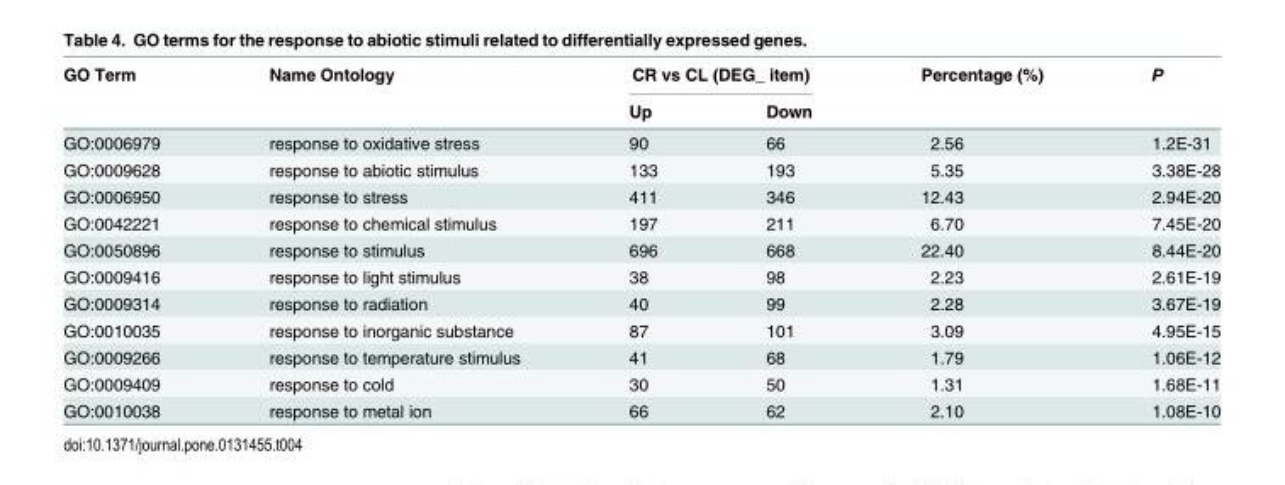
<table><thead><tr><td rowspan="2">GO Term</td><td rowspan="2">Name Ontology</td><td colspan="2">CR vs CL (DEG_ item)</td><td rowspan="2">Percentage (%)</td><td rowspan="2">P</td></tr><tr><td>Up</td><td>Down</td></tr></thead><tbody><tr><td>GO:0006979</td><td>response to oxidative stress</td><td>90</td><td>66</td><td>2.56</td><td>1.2E-31</td></tr><tr><td>GO:0009628</td><td>response to abiotic stimulus</td><td>133</td><td>193</td><td>5.35</td><td>3.38E-28</td></tr><tr><td>GO:0006950</td><td>response to stress</td><td>411</td><td>346</td><td>12.43</td><td>2.94E-20</td></tr><tr><td>GO:0042221</td><td>response to chemical stimulus</td><td>197</td><td>211</td><td>6.70</td><td>7.45E-20</td></tr><tr><td>GO:0050896</td><td>response to stimulus</td><td>696</td><td>668</td><td>22.40</td><td>8.44E-20</td></tr><tr><td>GO:0009416</td><td>response to light stimulus</td><td>38</td><td>98</td><td>2.23</td><td>2.61E-19</td></tr><tr><td>GO:0009314</td><td>response to radiation</td><td>40</td><td>99</td><td>2.28</td><td>3.67E-19</td></tr><tr><td>GO:0010035</td><td>response to inorganic substance</td><td>87</td><td>101</td><td>3.09</td><td>4.95E-15</td></tr><tr><td>GO:0009266</td><td>response to temperature stimulus</td><td>41</td><td>68</td><td>1.79</td><td>1.06E-12</td></tr><tr><td>GO:0009409</td><td>response to cold</td><td>30</td><td>50</td><td>1.31</td><td>1.68E-11</td></tr><tr><td>GO:0010038</td><td>response to metal ion</td><td>66</td><td>62</td><td>2.10</td><td>1.08E-10</td></tr></tbody></table>